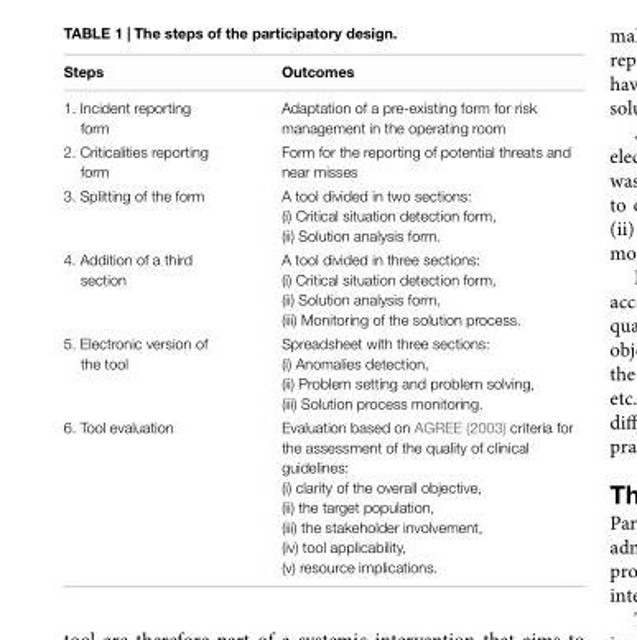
<table><thead><tr><td>Steps</td><td>Outcomes</td></tr></thead><tbody><tr><td>1. Incident reporting form</td><td>Adaptation of a pre-existing form for risk management in the operating room</td></tr><tr><td>2. Criticalities reporting form</td><td>Form for the reporting of potential threats and near misses</td></tr><tr><td>3. Splitting of the form</td><td>A tool divided in two sections: (i) Critical situation detection form, (ii) Solution analysis form.</td></tr><tr><td>4. Addition of a third section</td><td>A tool divided in three sections: (i) Critical situation detection form, (ii) Solution analysis form, (iii) Monitoring of the solution process.</td></tr><tr><td>5. Electronic version of the tool</td><td>Spreadsheet with three sections: (i) Anomalies detection, (ii) Problem setting and problem solving, (iii) Solution process monitoring.</td></tr><tr><td>6. Tool evaluation</td><td>Evaluation based on AGREE (2003) criteria for the assessment of the quality of clinical guidelines: (i) clarity of the overall objective, (ii) the target population, (iii) the stakeholder involvement, (iv) tool applicability, (v) resource implications.</td></tr></tbody></table>